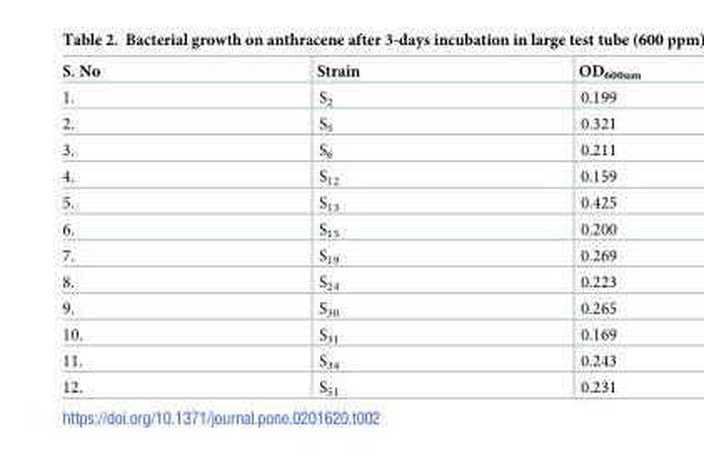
<table><thead><tr><td>S. No</td><td>Strain</td><td>OD<sub>600nm</sub></td></tr></thead><tbody><tr><td>1.</td><td>S<sub>2</sub></td><td>0.199</td></tr><tr><td>2.</td><td>S<sub>5</sub></td><td>0.321</td></tr><tr><td>3.</td><td>S<sub>6</sub></td><td>0.211</td></tr><tr><td>4.</td><td>S<sub>12</sub></td><td>0.159</td></tr><tr><td>5.</td><td>S<sub>13</sub></td><td>0.425</td></tr><tr><td>6.</td><td>S<sub>15</sub></td><td>0.200</td></tr><tr><td>7.</td><td>S<sub>19</sub></td><td>0.269</td></tr><tr><td>8.</td><td>S<sub>24</sub></td><td>0.223</td></tr><tr><td>9.</td><td>S<sub>30</sub></td><td>0.265</td></tr><tr><td>10.</td><td>S<sub>31</sub></td><td>0.169</td></tr><tr><td>11.</td><td>S<sub>34</sub></td><td>0.243</td></tr><tr><td>12.</td><td>S<sub>51</sub></td><td>0.231</td></tr></tbody></table>